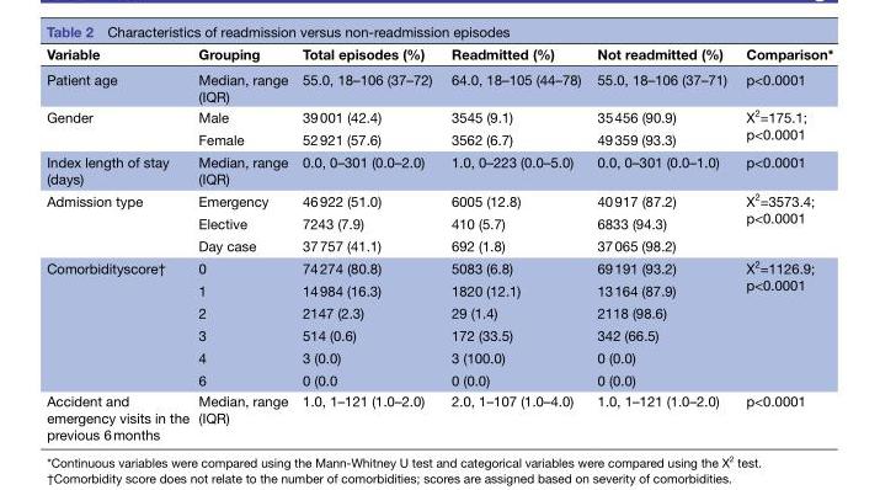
<table><thead><tr><td>Variable</td><td>Grouping</td><td>Total episodes (%)</td><td>Readmitted (%)</td><td>Not readmitted (%)</td><td>Comparison*</td></tr></thead><tbody><tr><td>Patient age</td><td>Median, range (IQR)</td><td>55.0, 18–106 (37–72)</td><td>64.0, 18–105 (44–78)</td><td>55.0, 18–106 (37–71)</td><td>p&lt;0.0001</td></tr><tr><td rowspan="2">Gender</td><td>Male</td><td>39 001 (42.4)</td><td>3545 (9.1)</td><td>35 456 (90.9)</td><td rowspan="2">X<sup>2</sup>=175.1; p&lt;0.0001</td></tr><tr><td>Female</td><td>52 921 (57.6)</td><td>3562 (6.7)</td><td>49 359 (93.3)</td></tr><tr><td>Index length of stay (days)</td><td>Median, range (IQR)</td><td>0.0, 0–301 (0.0–2.0)</td><td>1.0, 0–223 (0.0–5.0)</td><td>0.0, 0–301 (0.0–1.0)</td><td>p&lt;0.0001</td></tr><tr><td rowspan="3">Admission type</td><td>Emergency</td><td>46 922 (51.0)</td><td>6005 (12.8)</td><td>40 917 (87.2)</td><td rowspan="3">X<sup>2</sup>=3573.4; p&lt;0.0001</td></tr><tr><td>Elective</td><td>7243 (7.9)</td><td>410 (5.7)</td><td>6833 (94.3)</td></tr><tr><td>Day case</td><td>37 757 (41.1)</td><td>692 (1.8)</td><td>37 065 (98.2)</td></tr><tr><td rowspan="6">Comorbidityscore†</td><td>0</td><td>74 274 (80.8)</td><td>5083 (6.8)</td><td>69 191 (93.2)</td><td rowspan="6">X<sup>2</sup>=1126.9; p&lt;0.0001</td></tr><tr><td>1</td><td>14 984 (16.3)</td><td>1820 (12.1)</td><td>13 164 (87.9)</td></tr><tr><td>2</td><td>2147 (2.3)</td><td>29 (1.4)</td><td>2118 (98.6)</td></tr><tr><td>3</td><td>514 (0.6)</td><td>172 (33.5)</td><td>342 (66.5)</td></tr><tr><td>4</td><td>3 (0.0)</td><td>3 (100.0)</td><td>0 (0.0)</td></tr><tr><td>6</td><td>0 (0.0</td><td>0 (0.0)</td><td>0 (0.0)</td></tr><tr><td>Accident and emergency visits in the previous 6 months</td><td>Median, range (IQR)</td><td>1.0, 1–121 (1.0–2.0)</td><td>2.0, 1–107 (1.0–4.0)</td><td>1.0, 1–121 (1.0–2.0)</td><td>p&lt;0.0001</td></tr></tbody></table>